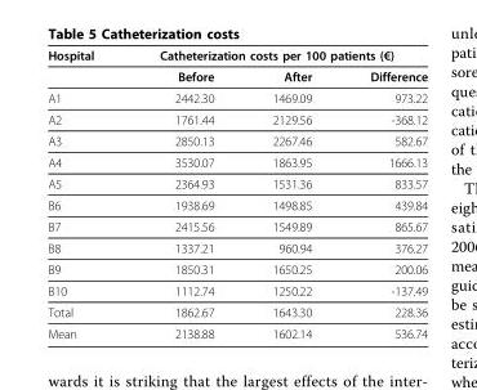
<table><thead><tr><td rowspan="2">Hospital</td><td colspan="3">Catheterization costs per 100 patients (€)</td></tr><tr><td>Before</td><td>After</td><td>Difference</td></tr></thead><tbody><tr><td>A1</td><td>2442.30</td><td>1469.09</td><td>973.22</td></tr><tr><td>A2</td><td>1761.44</td><td>2129.56</td><td>-368.12</td></tr><tr><td>A3</td><td>2850.13</td><td>2267.46</td><td>582.67</td></tr><tr><td>A4</td><td>3530.07</td><td>1863.95</td><td>1666.13</td></tr><tr><td>A5</td><td>2364.93</td><td>1531.36</td><td>833.57</td></tr><tr><td>B6</td><td>1938.69</td><td>1498.85</td><td>439.84</td></tr><tr><td>B7</td><td>2415.56</td><td>1549.89</td><td>865.67</td></tr><tr><td>B8</td><td>1337.21</td><td>960.94</td><td>376.27</td></tr><tr><td>B9</td><td>1850.31</td><td>1650.25</td><td>200.06</td></tr><tr><td>B10</td><td>1112.74</td><td>1250.22</td><td>-137.49</td></tr><tr><td>Total</td><td>1862.67</td><td>1643.30</td><td>228.36</td></tr><tr><td>Mean</td><td>2138.88</td><td>1602.14</td><td>536.74</td></tr></tbody></table>